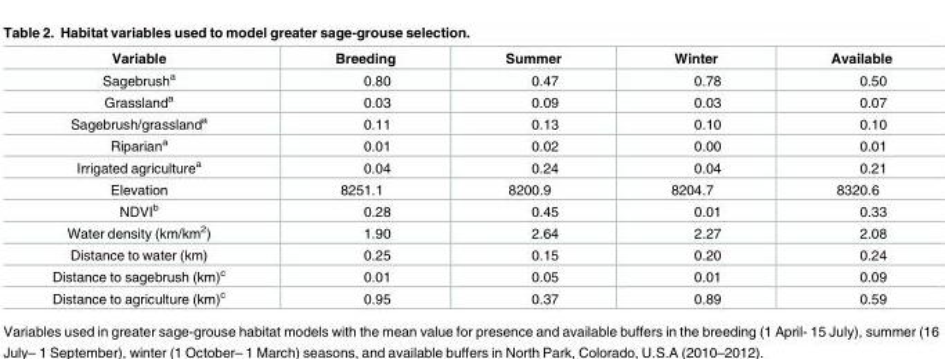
<table><thead><tr><td>Variable</td><td>Breeding</td><td>Summer</td><td>Winter</td><td>Available</td></tr></thead><tbody><tr><td>Sagebrush<sup>a</sup></td><td>0.80</td><td>0.47</td><td>0.78</td><td>0.50</td></tr><tr><td>Grassland<sup>a</sup></td><td>0.03</td><td>0.09</td><td>0.03</td><td>0.07</td></tr><tr><td>Sagebrush/grassland<sup>a</sup></td><td>0.11</td><td>0.13</td><td>0.10</td><td>0.10</td></tr><tr><td>Riparian<sup>a</sup></td><td>0.01</td><td>0.02</td><td>0.00</td><td>0.01</td></tr><tr><td>Irrigated agriculture<sup>a</sup></td><td>0.04</td><td>0.24</td><td>0.04</td><td>0.21</td></tr><tr><td>Elevation</td><td>8251.1</td><td>8200.9</td><td>8204.7</td><td>8320.6</td></tr><tr><td>NDVI<sup>b</sup></td><td>0.28</td><td>0.45</td><td>0.01</td><td>0.33</td></tr><tr><td>Water density (km/km<sup>2</sup>)</td><td>1.90</td><td>2.64</td><td>2.27</td><td>2.08</td></tr><tr><td>Distance to water (km)</td><td>0.25</td><td>0.15</td><td>0.20</td><td>0.24</td></tr><tr><td>Distance to sagebrush (km)<sup>c</sup></td><td>0.01</td><td>0.05</td><td>0.01</td><td>0.09</td></tr><tr><td>Distance to agriculture (km)<sup>c</sup></td><td>0.95</td><td>0.37</td><td>0.89</td><td>0.59</td></tr></tbody></table>